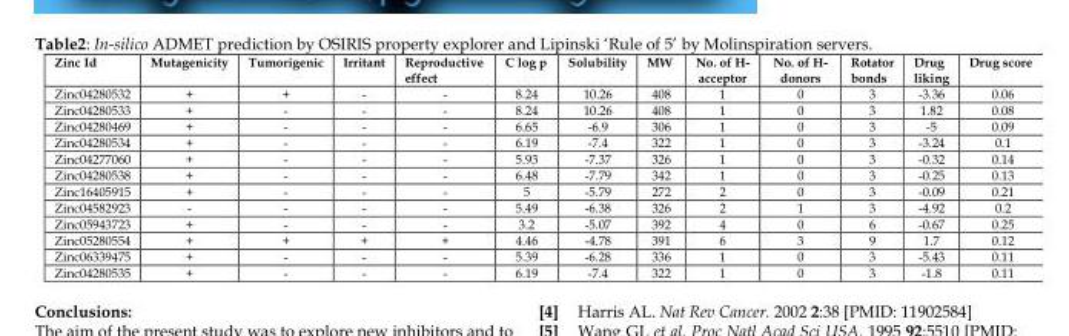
<table><thead><tr><td>Zinc Id</td><td>Mutagenicity</td><td>Tumorigenic</td><td>Irritant</td><td>Reproductive effect</td><td>C log p</td><td>Solubility</td><td>MW</td><td>No. of H- acceptor</td><td>No. of H- donors</td><td>Rotator bonds</td><td>Drug liking</td><td>Drug score</td></tr></thead><tbody><tr><td>Zinc04280532</td><td>+</td><td>+</td><td>-</td><td>-</td><td>8.24</td><td>10.26</td><td>408</td><td>1</td><td>0</td><td>3</td><td>-3.36</td><td>0.06</td></tr><tr><td>Zinc04280533</td><td>+</td><td>-</td><td>-</td><td>-</td><td>8.24</td><td>10.26</td><td>408</td><td>1</td><td>0</td><td>3</td><td>1.82</td><td>0.08</td></tr><tr><td>Zinc04280469</td><td>+</td><td>-</td><td>-</td><td>-</td><td>6.65</td><td>-6.9</td><td>306</td><td>1</td><td>0</td><td>3</td><td>-5</td><td>0.09</td></tr><tr><td>Zinc04280534</td><td>+</td><td>-</td><td>-</td><td>-</td><td>6.19</td><td>-7.4</td><td>322</td><td>1</td><td>0</td><td>3</td><td>-3.24</td><td>0.1</td></tr><tr><td>Zinc04277060</td><td>+</td><td>-</td><td>-</td><td>-</td><td>5.93</td><td>-7.37</td><td>326</td><td>1</td><td>0</td><td>3</td><td>-0.32</td><td>0.14</td></tr><tr><td>Zinc04280538</td><td>+</td><td>-</td><td>-</td><td>-</td><td>6.48</td><td>-7.79</td><td>342</td><td>1</td><td>0</td><td>3</td><td>-0.25</td><td>0.13</td></tr><tr><td>Zinc16405915</td><td>+</td><td>-</td><td>-</td><td>-</td><td>5</td><td>-5.79</td><td>272</td><td>2</td><td>0</td><td>3</td><td>-0.09</td><td>0.21</td></tr><tr><td>Zinc04582923</td><td>-</td><td>-</td><td>-</td><td>-</td><td>5.49</td><td>-6.38</td><td>326</td><td>2</td><td>1</td><td>3</td><td>-4.92</td><td>0.2</td></tr><tr><td>Zinc05943723</td><td>+</td><td>-</td><td>-</td><td>-</td><td>3.2</td><td>-5.07</td><td>392</td><td>4</td><td>0</td><td>6</td><td>-0.67</td><td>0.25</td></tr><tr><td>Zinc05280554</td><td>+</td><td>+</td><td>+</td><td>+</td><td>4.46</td><td>-4.78</td><td>391</td><td>6</td><td>3</td><td>9</td><td>1.7</td><td>0.12</td></tr><tr><td>Zinc06339475</td><td>+</td><td>-</td><td>-</td><td>-</td><td>5.39</td><td>-6.28</td><td>336</td><td>1</td><td>0</td><td>3</td><td>-5.43</td><td>0.11</td></tr><tr><td>Zinc04280535</td><td>+</td><td>-</td><td>-</td><td>-</td><td>6.19</td><td>-7.4</td><td>322</td><td>1</td><td>0</td><td>3</td><td>-1.8</td><td>0.11</td></tr></tbody></table>